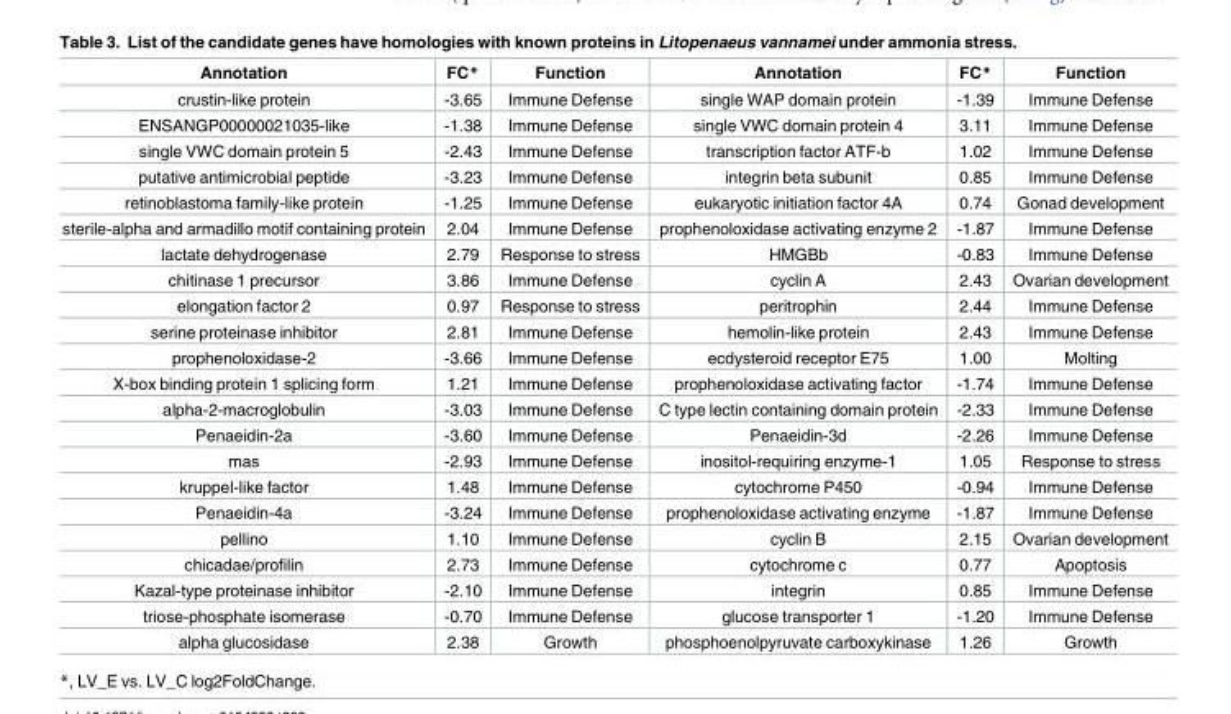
<table><thead><tr><td>Annotation</td><td>FC*</td><td>Function</td><td>Annotation</td><td>FC*</td><td>Function</td></tr></thead><tbody><tr><td>crustin-like protein</td><td>-3.65</td><td>Immune Defense</td><td>single WAP domain protein</td><td>-1.39</td><td>Immune Defense</td></tr><tr><td>ENSANGP00000021035-like</td><td>-1.38</td><td>Immune Defense</td><td>single VWC domain protein 4</td><td>3.11</td><td>Immune Defense</td></tr><tr><td>single VWC domain protein 5</td><td>-2.43</td><td>Immune Defense</td><td>transcription factor ATF-b</td><td>1.02</td><td>Immune Defense</td></tr><tr><td>putative antimicrobial peptide</td><td>-3.23</td><td>Immune Defense</td><td>integrin beta subunit</td><td>0.85</td><td>Immune Defense</td></tr><tr><td>retinoblastoma family-like protein</td><td>-1.25</td><td>Immune Defense</td><td>eukaryotic initiation factor 4A</td><td>0.74</td><td>Gonad development</td></tr><tr><td>sterile-alpha and armadillo motif containing protein</td><td>2.04</td><td>Immune Defense</td><td>prophenoloxidase activating enzyme 2</td><td>-1.87</td><td>Immune Defense</td></tr><tr><td>lactate dehydrogenase</td><td>2.79</td><td>Response to stress</td><td>HMGBb</td><td>-0.83</td><td>Immune Defense</td></tr><tr><td>chitinase 1 precursor</td><td>3.86</td><td>Immune Defense</td><td>cyclin A</td><td>2.43</td><td>Ovarian development</td></tr><tr><td>elongation factor 2</td><td>0.97</td><td>Response to stress</td><td>peritrophin</td><td>2.44</td><td>Immune Defense</td></tr><tr><td>serine proteinase inhibitor</td><td>2.81</td><td>Immune Defense</td><td>hemolin-like protein</td><td>2.43</td><td>Immune Defense</td></tr><tr><td>prophenoloxidase-2</td><td>-3.66</td><td>Immune Defense</td><td>ecdysteroid receptor E75</td><td>1.00</td><td>Molting</td></tr><tr><td>X-box binding protein 1 splicing form</td><td>1.21</td><td>Immune Defense</td><td>prophenoloxidase activating factor</td><td>-1.74</td><td>Immune Defense</td></tr><tr><td>alpha-2-macroglobulin</td><td>-3.03</td><td>Immune Defense</td><td>C type lectin containing domain protein</td><td>-2.33</td><td>Immune Defense</td></tr><tr><td>Penaeidin-2a</td><td>-3.60</td><td>Immune Defense</td><td>Penaeidin-3d</td><td>-2.26</td><td>Immune Defense</td></tr><tr><td>mas</td><td>-2.93</td><td>Immune Defense</td><td>inositol-requiring enzyme-1</td><td>1.05</td><td>Response to stress</td></tr><tr><td>kruppel-like factor</td><td>1.48</td><td>Immune Defense</td><td>cytochrome P450</td><td>-0.94</td><td>Immune Defense</td></tr><tr><td>Penaeidin-4a</td><td>-3.24</td><td>Immune Defense</td><td>prophenoloxidase activating enzyme</td><td>-1.87</td><td>Immune Defense</td></tr><tr><td>pellino</td><td>1.10</td><td>Immune Defense</td><td>cyclin B</td><td>2.15</td><td>Ovarian development</td></tr><tr><td>chicadae/profilin</td><td>2.73</td><td>Immune Defense</td><td>cytochrome c</td><td>0.77</td><td>Apoptosis</td></tr><tr><td>Kazal-type proteinase inhibitor</td><td>-2.10</td><td>Immune Defense</td><td>integrin</td><td>0.85</td><td>Immune Defense</td></tr><tr><td>triose-phosphate isomerase</td><td>-0.70</td><td>Immune Defense</td><td>glucose transporter 1</td><td>-1.20</td><td>Immune Defense</td></tr><tr><td>alpha glucosidase</td><td>2.38</td><td>Growth</td><td>phosphoenolpyruvate carboxykinase</td><td>1.26</td><td>Growth</td></tr></tbody></table>